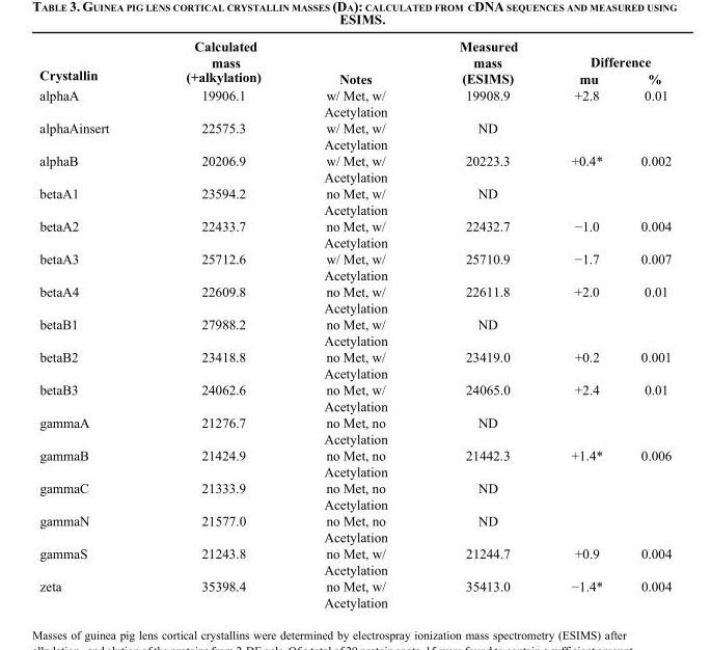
<table><thead><tr><td rowspan="2">Crystallin</td><td rowspan="2">Calculated mass (+alkylation)</td><td rowspan="2">Notes</td><td rowspan="2">Measured mass (ESIMS)</td><td colspan="2">Difference</td></tr><tr><td>mu</td><td>%</td></tr></thead><tbody><tr><td>alphaA</td><td>19906.1</td><td>w/ Met, w/ Acetylation</td><td>19908.9</td><td>+2.8</td><td>0.01</td></tr><tr><td>alphaAinsert</td><td>22575.3</td><td>w/ Met, w/ Acetylation</td><td>ND</td><td></td><td></td></tr><tr><td>alphaB</td><td>20206.9</td><td>w/ Met, w/ Acetylation</td><td>20223.3</td><td>+0.4*</td><td>0.002</td></tr><tr><td>betaA1</td><td>23594.2</td><td>no Met, w/ Acetylation</td><td>ND</td><td></td><td></td></tr><tr><td>betaA2</td><td>22433.7</td><td>no Met, w/ Acetylation</td><td>22432.7</td><td>−1.0</td><td>0.004</td></tr><tr><td>betaA3</td><td>25712.6</td><td>w/ Met, w/ Acetylation</td><td>25710.9</td><td>−1.7</td><td>0.007</td></tr><tr><td>betaA4</td><td>22609.8</td><td>no Met, w/ Acetylation</td><td>22611.8</td><td>+2.0</td><td>0.01</td></tr><tr><td>betaB1</td><td>27988.2</td><td>no Met, w/ Acetylation</td><td>ND</td><td></td><td></td></tr><tr><td>betaB2</td><td>23418.8</td><td>no Met, w/ Acetylation</td><td>23419.0</td><td>+0.2</td><td>0.001</td></tr><tr><td>betaB3</td><td>24062.6</td><td>no Met, w/ Acetylation</td><td>24065.0</td><td>+2.4</td><td>0.01</td></tr><tr><td>gammaA</td><td>21276.7</td><td>no Met, no Acetylation</td><td>ND</td><td></td><td></td></tr><tr><td>gammaB</td><td>21424.9</td><td>no Met, no Acetylation</td><td>21442.3</td><td>+1.4*</td><td>0.006</td></tr><tr><td>gammaC</td><td>21333.9</td><td>no Met, no Acetylation</td><td>ND</td><td></td><td></td></tr><tr><td>gammaN</td><td>21577.0</td><td>no Met, no Acetylation</td><td>ND</td><td></td><td></td></tr><tr><td>gammaS</td><td>21243.8</td><td>no Met, w/ Acetylation</td><td>21244.7</td><td>+0.9</td><td>0.004</td></tr><tr><td>zeta</td><td>35398.4</td><td>no Met, w/ Acetylation</td><td>35413.0</td><td>−1.4*</td><td>0.004</td></tr></tbody></table>